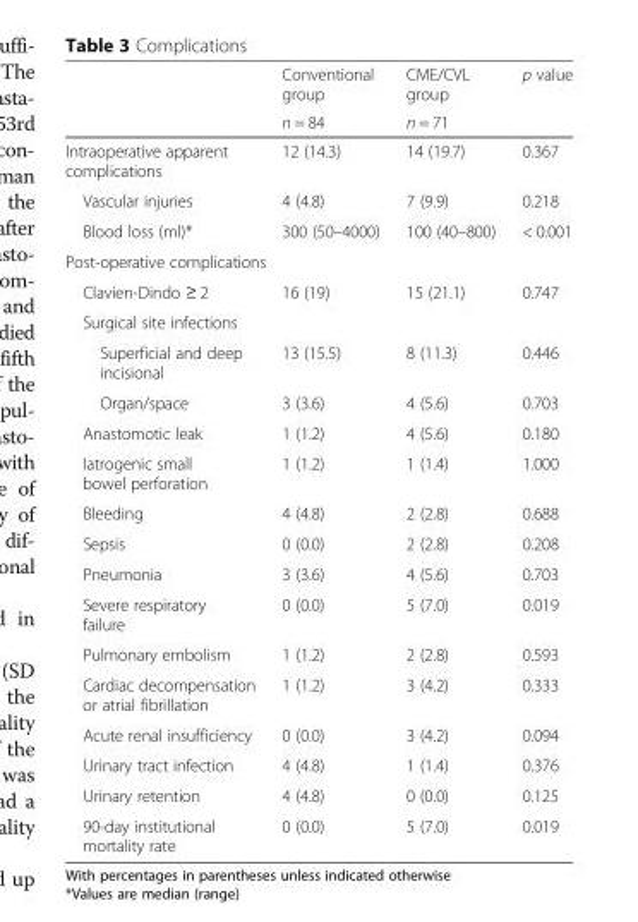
<table><thead><tr><td rowspan="2"></td><td rowspan="2">Conventional group n = 84</td><td rowspan="2">CME/CVL group n = 71</td><td rowspan="2">p value</td></tr><tr></tr></thead><tbody><tr><td>Intraoperative apparent complications</td><td>12 (14.3)</td><td>14 (19.7)</td><td>0.367</td></tr><tr><td>Vascular injuries</td><td>4 (4.8)</td><td>7 (9.9)</td><td>0.218</td></tr><tr><td>Blood loss (ml)*</td><td>300 (50–4000)</td><td>100 (40–800)</td><td>&lt; 0.001</td></tr><tr><td colspan="4">Post-operative complications</td></tr><tr><td>Clavien-Dindo ≥ 2</td><td>16 (19)</td><td>15 (21.1)</td><td>0.747</td></tr><tr><td colspan="4">Surgical site infections</td></tr><tr><td>Superficial and deep incisional</td><td>13 (15.5)</td><td>8 (11.3)</td><td>0.446</td></tr><tr><td>Organ/space</td><td>3 (3.6)</td><td>4 (5.6)</td><td>0.703</td></tr><tr><td>Anastomotic leak</td><td>1 (1.2)</td><td>4 (5.6)</td><td>0.180</td></tr><tr><td>Iatrogenic small bowel perforation</td><td>1 (1.2)</td><td>1 (1.4)</td><td>1.000</td></tr><tr><td>Bleeding</td><td>4 (4.8)</td><td>2 (2.8)</td><td>0.688</td></tr><tr><td>Sepsis</td><td>0 (0.0)</td><td>2 (2.8)</td><td>0.208</td></tr><tr><td>Pneumonia</td><td>3 (3.6)</td><td>4 (5.6)</td><td>0.703</td></tr><tr><td>Severe respiratory failure</td><td>0 (0.0)</td><td>5 (7.0)</td><td>0.019</td></tr><tr><td>Pulmonary embolism</td><td>1 (1.2)</td><td>2 (2.8)</td><td>0.593</td></tr><tr><td>Cardiac decompensation or atrial fibrillation</td><td>1 (1.2)</td><td>3 (4.2)</td><td>0.333</td></tr><tr><td>Acute renal insufficiency</td><td>0 (0.0)</td><td>3 (4.2)</td><td>0.094</td></tr><tr><td>Urinary tract infection</td><td>4 (4.8)</td><td>1 (1.4)</td><td>0.376</td></tr><tr><td>Urinary retention</td><td>4 (4.8)</td><td>0 (0.0)</td><td>0.125</td></tr><tr><td>90-day institutional mortality rate</td><td>0 (0.0)</td><td>5 (7.0)</td><td>0.019</td></tr></tbody></table>